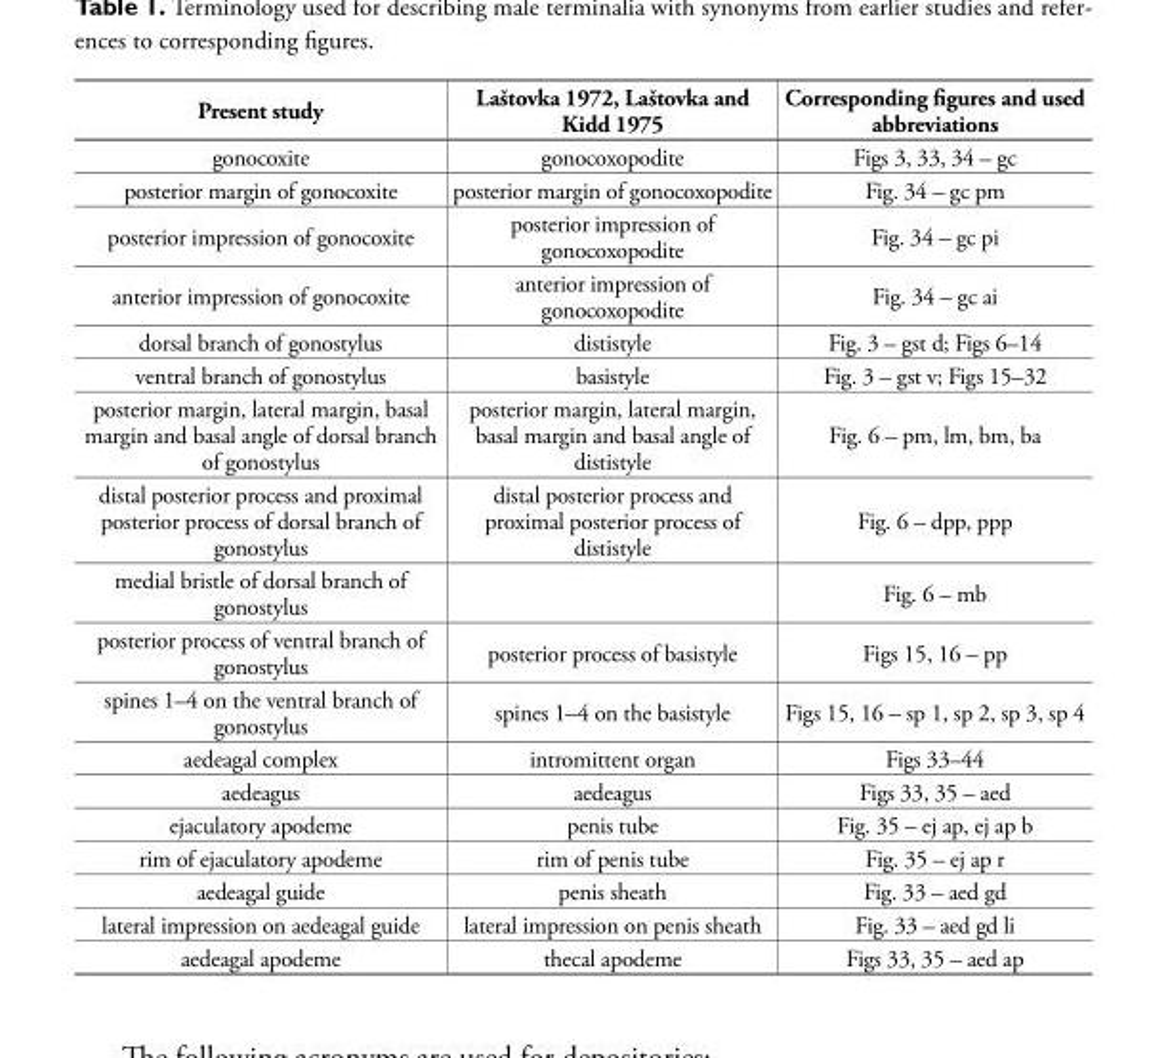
<table><thead><tr><td>Present study</td><td>Laštovka 1972, Laštovka and Kidd 1975</td><td>Corresponding figures and used abbreviations</td></tr></thead><tbody><tr><td>gonocoxite</td><td>gonocoxopodite</td><td>Figs 3, 33, 34 – gc</td></tr><tr><td>posterior margin of gonocoxite</td><td>posterior margin of gonocoxopodite</td><td>Fig. 34 – gc pm</td></tr><tr><td>posterior impression of gonocoxite</td><td>posterior impression of gonocoxopodite</td><td>Fig. 34 – gc pi</td></tr><tr><td>anterior impression of gonocoxite</td><td>anterior impression of gonocoxopodite</td><td>Fig. 34 – gc ai</td></tr><tr><td>dorsal branch of gonostylus</td><td>dististyle</td><td>Fig. 3 – gst d; Figs 6–14</td></tr><tr><td>ventral branch of gonostylus</td><td>basistyle</td><td>Fig. 3 – gst v; Figs 15–32</td></tr><tr><td>posterior margin, lateral margin, basal margin and basal angle of dorsal branch of gonostylus</td><td>posterior margin, lateral margin, basal margin and basal angle of dististyle</td><td>Fig. 6 – pm, lm, bm, ba</td></tr><tr><td>distal posterior process and proximal posterior process of dorsal branch of gonostylus</td><td>distal posterior process and proximal posterior process of dististyle</td><td>Fig. 6 – dpp, ppp</td></tr><tr><td>medial bristle of dorsal branch of gonostylus</td><td></td><td>Fig. 6 – mb</td></tr><tr><td>posterior process of ventral branch of gonostylus</td><td>posterior process of basistyle</td><td>Figs 15, 16 – pp</td></tr><tr><td>spines 1–4 on the ventral branch of gonostylus</td><td>spines 1–4 on the basistyle</td><td>Figs 15, 16 – sp 1, sp 2, sp 3, sp 4</td></tr><tr><td>aedeagal complex</td><td>intromittent organ</td><td>Figs 33–44</td></tr><tr><td>aedeagus</td><td>aedeagus</td><td>Figs 33, 35 – aed</td></tr><tr><td>ejaculatory apodeme</td><td>penis tube</td><td>Fig. 35 – ej ap, ej ap b</td></tr><tr><td>rim of ejaculatory apodeme</td><td>rim of penis tube</td><td>Fig. 35 – ej ap r</td></tr><tr><td>aedeagal guide</td><td>penis sheath</td><td>Fig. 33 – aed gd</td></tr><tr><td>lateral impression on aedeagal guide</td><td>lateral impression on penis sheath</td><td>Fig. 33 – aed gd li</td></tr><tr><td>aedeagal apodeme</td><td>thecal apodeme</td><td>Figs 33, 35 – aed ap</td></tr></tbody></table>